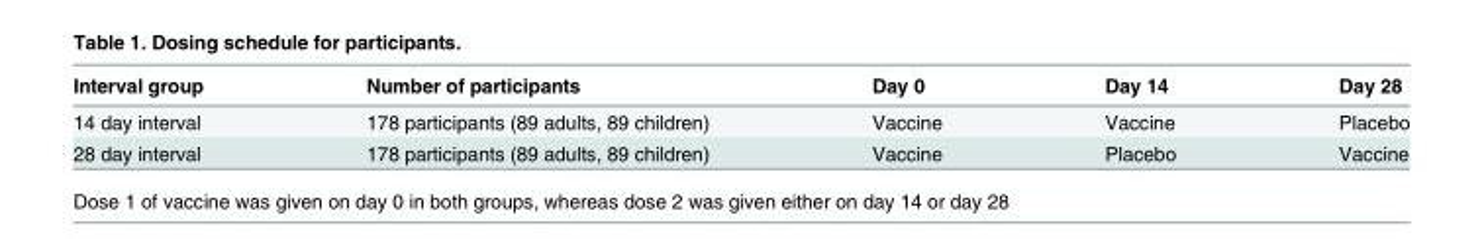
<table><thead><tr><td>Interval group</td><td>Number of participants</td><td>Day 0</td><td>Day 14</td><td>Day 28</td></tr></thead><tbody><tr><td>14 day interval</td><td>178 participants (89 adults, 89 children)</td><td>Vaccine</td><td>Vaccine</td><td>Placebo</td></tr><tr><td>28 day interval</td><td>178 participants (89 adults, 89 children)</td><td>Vaccine</td><td>Placebo</td><td>Vaccine</td></tr></tbody></table>